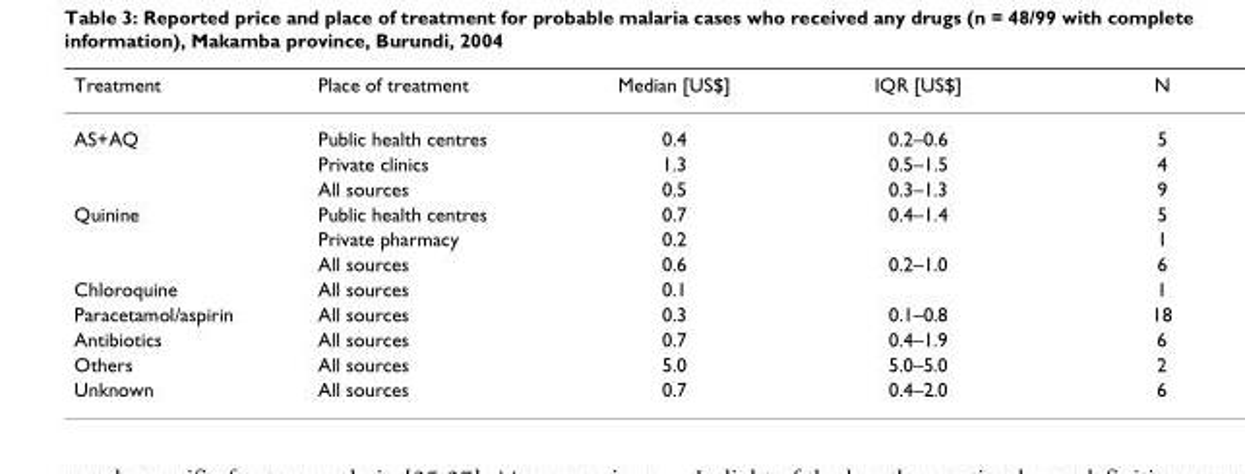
<table><thead><tr><td>Treatment</td><td>Place of treatment</td><td>Median [US$]</td><td>IQR [US$]</td><td>N</td></tr></thead><tbody><tr><td rowspan="3">AS+AQ</td><td>Public health centres</td><td>0.4</td><td>0.2–0.6</td><td>5</td></tr><tr><td>Private clinics</td><td>1.3</td><td>0.5–1.5</td><td>4</td></tr><tr><td>All sources</td><td>0.5</td><td>0.3–1.3</td><td>9</td></tr><tr><td rowspan="3">Quinine</td><td>Public health centres</td><td>0.7</td><td>0.4–1.4</td><td>5</td></tr><tr><td>Private pharmacy</td><td>0.2</td><td></td><td>1</td></tr><tr><td>All sources</td><td>0.6</td><td>0.2–1.0</td><td>6</td></tr><tr><td>Chloroquine</td><td>All sources</td><td>0.1</td><td></td><td>1</td></tr><tr><td>Paracetamol/aspirin</td><td>All sources</td><td>0.3</td><td>0.1–0.8</td><td>18</td></tr><tr><td>Antibiotics</td><td>All sources</td><td>0.7</td><td>0.4–1.9</td><td>6</td></tr><tr><td>Others</td><td>All sources</td><td>5.0</td><td>5.0–5.0</td><td>2</td></tr><tr><td>Unknown</td><td>All sources</td><td>0.7</td><td>0.4–2.0</td><td>6</td></tr></tbody></table>